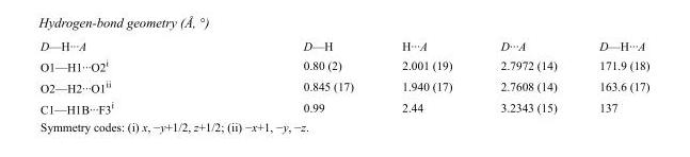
<table><tbody><tr><td>D—H···A</td><td>D—H</td><td>H···A</td><td>D···A</td><td>D—H···A</td></tr><tr><td>O1—H1···O2<sup>i</sup></td><td>0.80 (2)</td><td>2.001 (19)</td><td>2.7972 (14)</td><td>171.9 (18)</td></tr><tr><td>O2—H2···O1<sup>ii</sup></td><td>0.845 (17)</td><td>1.940 (17)</td><td>2.7608 (14)</td><td>163.6 (17)</td></tr><tr><td>C1—H1B···F3<sup>i</sup></td><td>0.99</td><td>2.44</td><td>3.2343 (15)</td><td>137</td></tr></tbody></table>